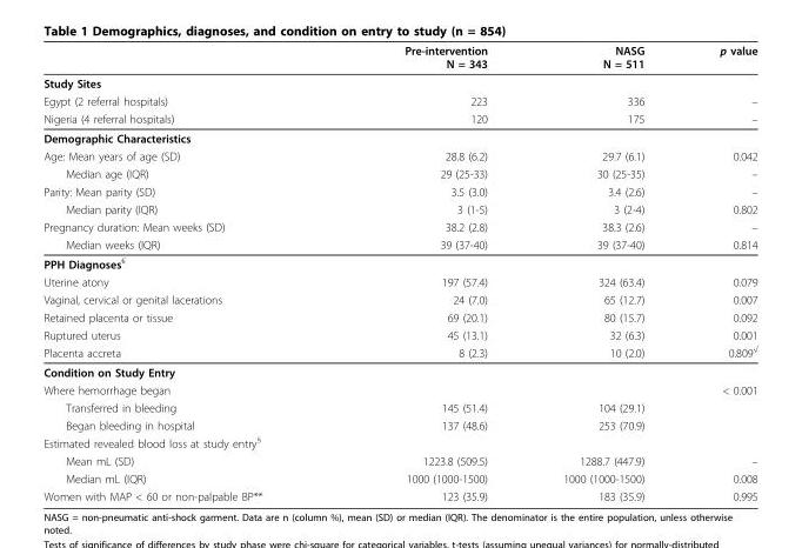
<table><thead><tr><td></td><td>Pre-intervention N = 343</td><td>NASG N = 511</td><td>p value</td></tr></thead><tbody><tr><td colspan="4">Study Sites</td></tr><tr><td>Egypt (2 referral hospitals)</td><td>223</td><td>336</td><td>–</td></tr><tr><td>Nigeria (4 referral hospitals)</td><td>120</td><td>175</td><td>–</td></tr><tr><td colspan="4">Demographic Characteristics</td></tr><tr><td>Age: Mean years of age (SD)</td><td>28.8 (6.2)</td><td>29.7 (6.1)</td><td>0.042</td></tr><tr><td>Median age (IQR)</td><td>29 (25-33)</td><td>30 (25-35)</td><td>–</td></tr><tr><td>Parity: Mean parity (SD)</td><td>3.5 (3.0)</td><td>3.4 (2.6)</td><td>–</td></tr><tr><td>Median parity (IQR)</td><td>3 (1-5)</td><td>3 (2-4)</td><td>0.802</td></tr><tr><td>Pregnancy duration: Mean weeks (SD)</td><td>38.2 (2.8)</td><td>38.3 (2.6)</td><td>–</td></tr><tr><td>Median weeks (IQR)</td><td>39 (37-40)</td><td>39 (37-40)</td><td>0.814</td></tr><tr><td colspan="4">PPH Diagnoses<sup>€</sup></td></tr><tr><td>Uterine atony</td><td>197 (57.4)</td><td>324 (63.4)</td><td>0.079</td></tr><tr><td>Vaginal, cervical or genital lacerations</td><td>24 (7.0)</td><td>65 (12.7)</td><td>0.007</td></tr><tr><td>Retained placenta or tissue</td><td>69 (20.1)</td><td>80 (15.7)</td><td>0.092</td></tr><tr><td>Ruptured uterus</td><td>45 (13.1)</td><td>32 (6.3)</td><td>0.001</td></tr><tr><td>Placenta accreta</td><td>8 (2.3)</td><td>10 (2.0)</td><td>0.809<sup>√</sup></td></tr><tr><td colspan="4">Condition on Study Entry</td></tr><tr><td>Where hemorrhage began</td><td></td><td></td><td>&lt; 0.001</td></tr><tr><td>Transferred in bleeding</td><td>145 (51.4)</td><td>104 (29.1)</td><td></td></tr><tr><td>Began bleeding in hospital</td><td>137 (48.6)</td><td>253 (70.9)</td><td></td></tr><tr><td colspan="4">Estimated revealed blood loss at study entry<sup>§</sup></td></tr><tr><td>Mean mL (SD)</td><td>1223.8 (509.5)</td><td>1288.7 (447.9)</td><td>–</td></tr><tr><td>Median mL (IQR)</td><td>1000 (1000-1500)</td><td>1000 (1000-1500)</td><td>0.008</td></tr><tr><td>Women with MAP &lt; 60 or non-palpable BP**</td><td>123 (35.9)</td><td>183 (35.9)</td><td>0.995</td></tr></tbody></table>